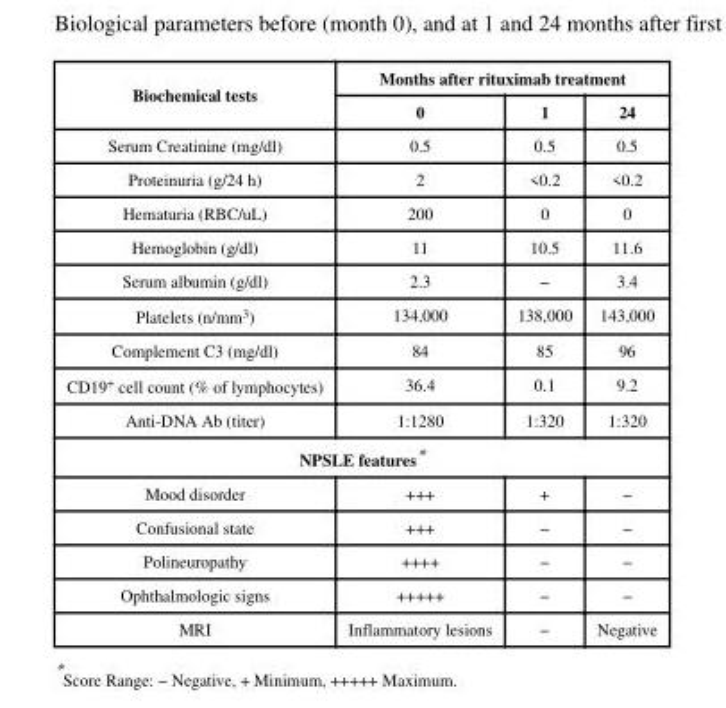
<table><thead><tr><td rowspan="2">Biochemical tests</td><td colspan="3">Months after rituximab treatment</td></tr><tr><td>0</td><td>1</td><td>24</td></tr></thead><tbody><tr><td>Serum Creatinine (mg/dl)</td><td>0.5</td><td>0.5</td><td>0.5</td></tr><tr><td>Proteinuria (g/24 h)</td><td>2</td><td>&lt;0.2</td><td>&lt;0.2</td></tr><tr><td>Hematuria (RBC/uL)</td><td>200</td><td>0</td><td>0</td></tr><tr><td>Hemoglobin (g/dl)</td><td>11</td><td>10.5</td><td>11.6</td></tr><tr><td>Serum albumin (g/dl)</td><td>2.3</td><td>−</td><td>3.4</td></tr><tr><td>Platelets (n/mm<sup>3</sup>)</td><td>134,000</td><td>138,000</td><td>143,000</td></tr><tr><td>Complement C3 (mg/dl)</td><td>84</td><td>85</td><td>96</td></tr><tr><td>CD19<sup>+</sup> cell count (% of lymphocytes)</td><td>36.4</td><td>0.1</td><td>9.2</td></tr><tr><td>Anti-DNA Ab (titer)</td><td>1:1280</td><td>1:320</td><td>1:320</td></tr><tr><td colspan="4">NPSLE features*</td></tr><tr><td>Mood disorder</td><td>+++</td><td>+</td><td>−</td></tr><tr><td>Confusional state</td><td>+++</td><td>−</td><td>−</td></tr><tr><td>Polineuropathy</td><td>++++</td><td>−</td><td>−</td></tr><tr><td>Ophthalmologic signs</td><td>+++++</td><td>−</td><td>−</td></tr><tr><td>MRI</td><td>Inflammatory lesions</td><td>−</td><td>Negative</td></tr></tbody></table>